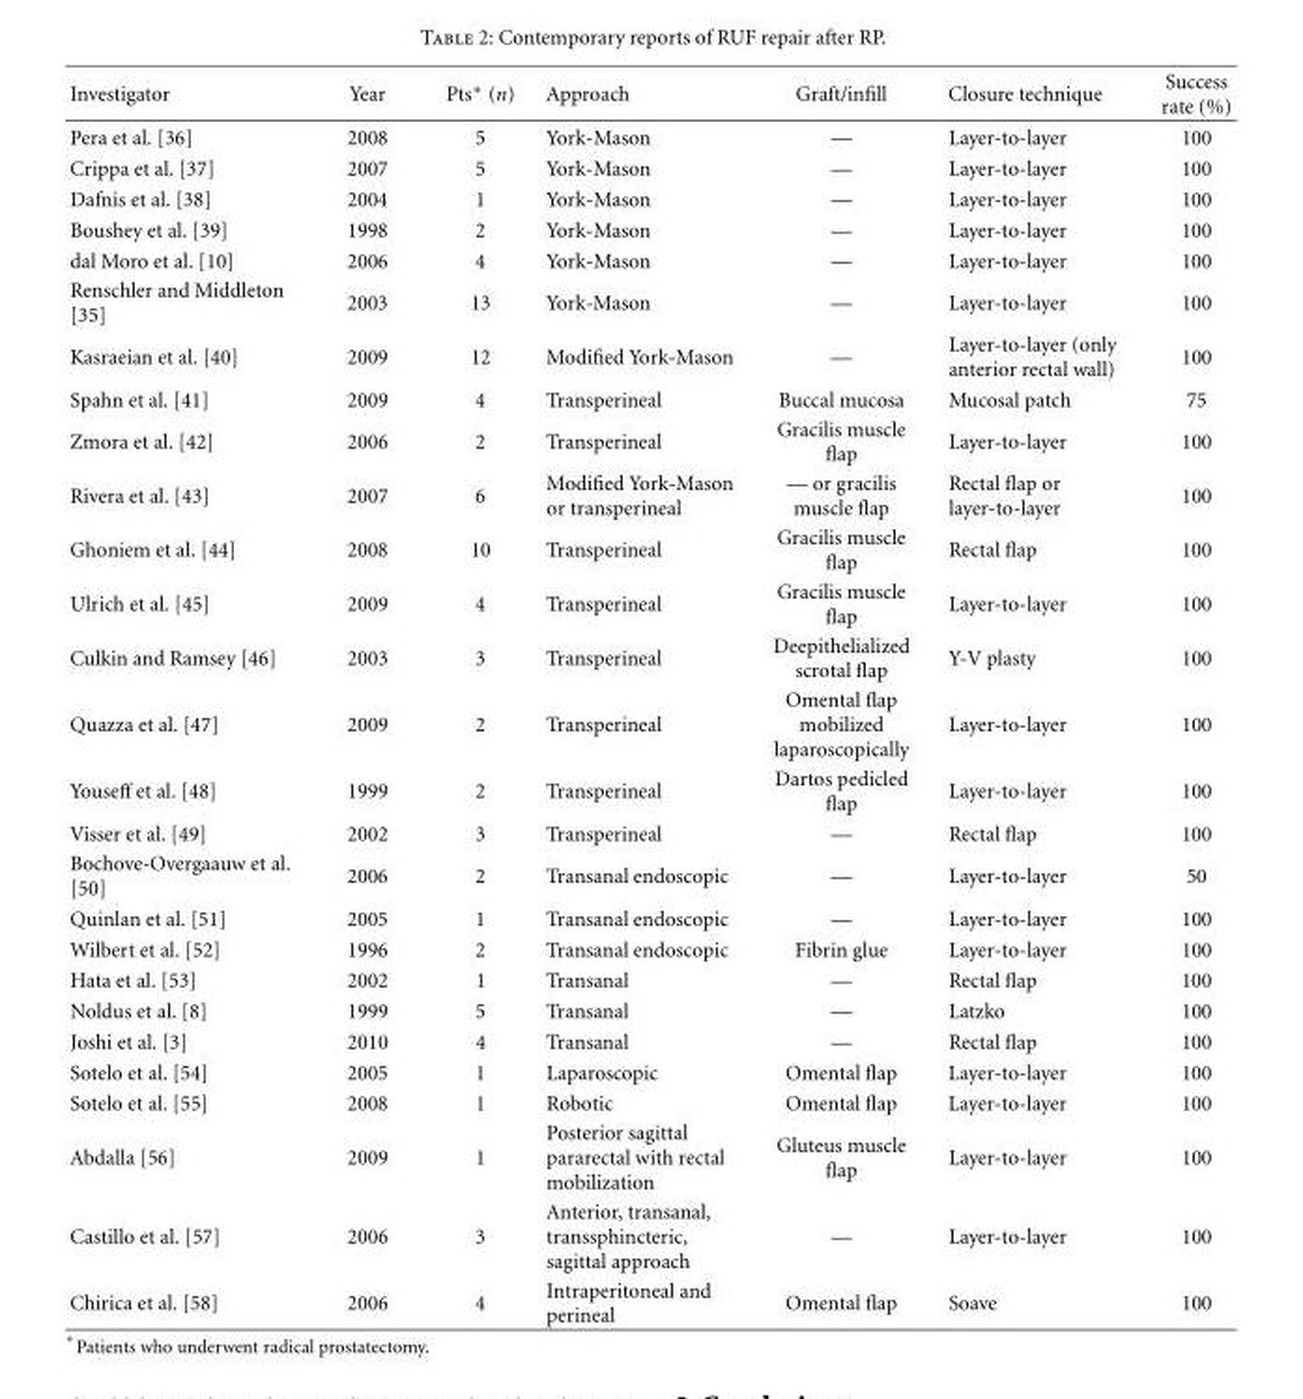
<table><thead><tr><td>Investigator</td><td>Year</td><td>Pts∗ (n)</td><td>Approach</td><td>Graft/infill</td><td>Closure technique</td><td>Success rate (%)</td></tr></thead><tbody><tr><td>Pera et al. [36]</td><td>2008</td><td>5</td><td>York-Mason</td><td>—</td><td>Layer-to-layer</td><td>100</td></tr><tr><td>Crippa et al. [37]</td><td>2007</td><td>5</td><td>York-Mason</td><td>—</td><td>Layer-to-layer</td><td>100</td></tr><tr><td>Dafnis et al. [38]</td><td>2004</td><td>1</td><td>York-Mason</td><td>—</td><td>Layer-to-layer</td><td>100</td></tr><tr><td>Boushey et al. [39]</td><td>1998</td><td>2</td><td>York-Mason</td><td>—</td><td>Layer-to-layer</td><td>100</td></tr><tr><td>dal Moro et al. [10]</td><td>2006</td><td>4</td><td>York-Mason</td><td>—</td><td>Layer-to-layer</td><td>100</td></tr><tr><td>Renschler and Middleton [35]</td><td>2003</td><td>13</td><td>York-Mason</td><td>—</td><td>Layer-to-layer</td><td>100</td></tr><tr><td>Kasraeian et al. [40]</td><td>2009</td><td>12</td><td>Modified York-Mason</td><td>—</td><td>Layer-to-layer (only anterior rectal wall)</td><td>100</td></tr><tr><td>Spahn et al. [41]</td><td>2009</td><td>4</td><td>Transperineal</td><td>Buccal mucosa</td><td>Mucosal patch</td><td>75</td></tr><tr><td>Zmora et al. [42]</td><td>2006</td><td>2</td><td>Transperineal</td><td>Gracilis muscle flap</td><td>Layer-to-layer</td><td>100</td></tr><tr><td>Rivera et al. [43]</td><td>2007</td><td>6</td><td>Modified York-Mason or transperineal</td><td>— or gracilis muscle flap</td><td>Rectal flap or layer-to-layer</td><td>100</td></tr><tr><td>Ghoniem et al. [44]</td><td>2008</td><td>10</td><td>Transperineal</td><td>Gracilis muscle flap</td><td>Rectal flap</td><td>100</td></tr><tr><td>Ulrich et al. [45]</td><td>2009</td><td>4</td><td>Transperineal</td><td>Gracilis muscle flap</td><td>Layer-to-layer</td><td>100</td></tr><tr><td>Culkin and Ramsey [46]</td><td>2003</td><td>3</td><td>Transperineal</td><td>Deepithelialized scrotal flap</td><td>Y-V plasty</td><td>100</td></tr><tr><td>Quazza et al. [47]</td><td>2009</td><td>2</td><td>Transperineal</td><td>Omental flap mobilized laparoscopically</td><td>Layer-to-layer</td><td>100</td></tr><tr><td>Youseff et al. [48]</td><td>1999</td><td>2</td><td>Transperineal</td><td>Dartos pedicled flap</td><td>Layer-to-layer</td><td>100</td></tr><tr><td>Visser et al. [49]</td><td>2002</td><td>3</td><td>Transperineal</td><td>—</td><td>Rectal flap</td><td>100</td></tr><tr><td>Bochove-Overgaauw et al. [50]</td><td>2006</td><td>2</td><td>Transanal endoscopic</td><td>—</td><td>Layer-to-layer</td><td>50</td></tr><tr><td>Quinlan et al. [51]</td><td>2005</td><td>1</td><td>Transanal endoscopic</td><td>—</td><td>Layer-to-layer</td><td>100</td></tr><tr><td>Wilbert et al. [52]</td><td>1996</td><td>2</td><td>Transanal endoscopic</td><td>Fibrin glue</td><td>Layer-to-layer</td><td>100</td></tr><tr><td>Hata et al. [53]</td><td>2002</td><td>1</td><td>Transanal</td><td>—</td><td>Rectal flap</td><td>100</td></tr><tr><td>Noldus et al. [8]</td><td>1999</td><td>5</td><td>Transanal</td><td>—</td><td>Latzko</td><td>100</td></tr><tr><td>Joshi et al. [3]</td><td>2010</td><td>4</td><td>Transanal</td><td>—</td><td>Rectal flap</td><td>100</td></tr><tr><td>Sotelo et al. [54]</td><td>2005</td><td>1</td><td>Laparoscopic</td><td>Omental flap</td><td>Layer-to-layer</td><td>100</td></tr><tr><td>Sotelo et al. [55]</td><td>2008</td><td>1</td><td>Robotic</td><td>Omental flap</td><td>Layer-to-layer</td><td>100</td></tr><tr><td>Abdalla [56]</td><td>2009</td><td>1</td><td>Posterior sagittal pararectal with rectal mobilization</td><td>Gluteus muscle flap</td><td>Layer-to-layer</td><td>100</td></tr><tr><td>Castillo et al. [57]</td><td>2006</td><td>3</td><td>Anterior, transanal, transsphincteric, sagittal approach</td><td>—</td><td>Layer-to-layer</td><td>100</td></tr><tr><td>Chirica et al. [58]</td><td>2006</td><td>4</td><td>Intraperitoneal and perineal</td><td>Omental flap</td><td>Soave</td><td>100</td></tr></tbody></table>